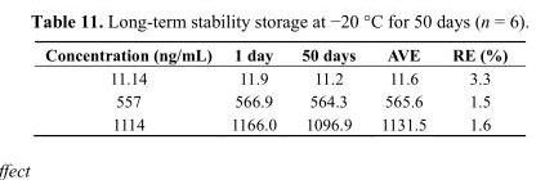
<table><thead><tr><td>Concentration (ng/mL)</td><td>1 day</td><td>50 days</td><td>AVE</td><td>RE (%)</td></tr></thead><tbody><tr><td>11.14</td><td>11.9</td><td>11.2</td><td>11.6</td><td>3.3</td></tr><tr><td>557</td><td>566.9</td><td>564.3</td><td>565.6</td><td>1.5</td></tr><tr><td>1114</td><td>1166.0</td><td>1096.9</td><td>1131.5</td><td>1.6</td></tr></tbody></table>